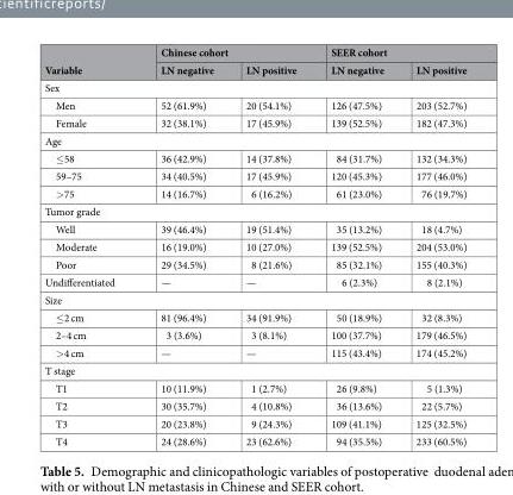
<table><thead><tr><td rowspan="2">Variable</td><td colspan="2">Chinese cohort</td><td colspan="2">SEER cohort</td></tr><tr><td>LN negative</td><td>LN positive</td><td>LN negative</td><td>LN positive</td></tr></thead><tbody><tr><td colspan="5">Sex</td></tr><tr><td>Men</td><td>52 (61.9%)</td><td>20 (54.1%)</td><td>126 (47.5%)</td><td>203 (52.7%)</td></tr><tr><td>Female</td><td>32 (38.1%)</td><td>17 (45.9%)</td><td>139 (52.5%)</td><td>182 (47.3%)</td></tr><tr><td colspan="5">Age</td></tr><tr><td>≤58</td><td>36 (42.9%)</td><td>14 (37.8%)</td><td>84 (31.7%)</td><td>132 (34.3%)</td></tr><tr><td>59–75</td><td>34 (40.5%)</td><td>17 (45.9%)</td><td>120 (45.3%)</td><td>177 (46.0%)</td></tr><tr><td>&gt;75</td><td>14 (16.7%)</td><td>6 (16.2%)</td><td>61 (23.0%)</td><td>76 (19.7%)</td></tr><tr><td colspan="5">Tumor grade</td></tr><tr><td>Well</td><td>39 (46.4%)</td><td>19 (51.4%)</td><td>35 (13.2%)</td><td>18 (4.7%)</td></tr><tr><td>Moderate</td><td>16 (19.0%)</td><td>10 (27.0%)</td><td>139 (52.5%)</td><td>204 (53.0%)</td></tr><tr><td>Poor</td><td>29 (34.5%)</td><td>8 (21.6%)</td><td>85 (32.1%)</td><td>155 (40.3%)</td></tr><tr><td>Undifferentiated</td><td>—</td><td>—</td><td>6 (2.3%)</td><td>8 (2.1%)</td></tr><tr><td colspan="5">Size</td></tr><tr><td>≤2 cm</td><td>81 (96.4%)</td><td>34 (91.9%)</td><td>50 (18.9%)</td><td>32 (8.3%)</td></tr><tr><td>2–4 cm</td><td>3 (3.6%)</td><td>3 (8.1%)</td><td>100 (37.7%)</td><td>179 (46.5%)</td></tr><tr><td>&gt;4 cm</td><td>—</td><td>—</td><td>115 (43.4%)</td><td>174 (45.2%)</td></tr><tr><td colspan="5">T stage</td></tr><tr><td>T1</td><td>10 (11.9%)</td><td>1 (2.7%)</td><td>26 (9.8%)</td><td>5 (1.3%)</td></tr><tr><td>T2</td><td>30 (35.7%)</td><td>4 (10.8%)</td><td>36 (13.6%)</td><td>22 (5.7%)</td></tr><tr><td>T3</td><td>20 (23.8%)</td><td>9 (24.3%)</td><td>109 (41.1%)</td><td>125 (32.5%)</td></tr><tr><td>T4</td><td>24 (28.6%)</td><td>23 (62.6%)</td><td>94 (35.5%)</td><td>233 (60.5%)</td></tr></tbody></table>